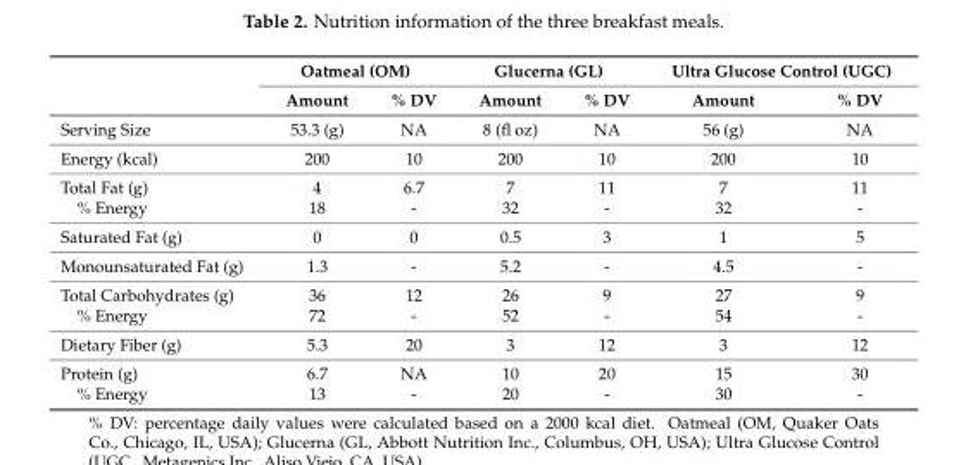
<table><thead><tr><td rowspan="2"></td><td colspan="2">Oatmeal (OM)</td><td colspan="2">Glucerna (GL)</td><td colspan="2">Ultra Glucose Control (UGC)</td></tr><tr><td>Amount</td><td>% DV</td><td>Amount</td><td>% DV</td><td>Amount</td><td>% DV</td></tr></thead><tbody><tr><td>Serving Size</td><td>53.3 (g)</td><td>NA</td><td>8 (fl oz)</td><td>NA</td><td>56 (g)</td><td>NA</td></tr><tr><td>Energy (kcal)</td><td>200</td><td>10</td><td>200</td><td>10</td><td>200</td><td>10</td></tr><tr><td>Total Fat (g)</td><td>4</td><td>6.7</td><td>7</td><td>11</td><td>7</td><td>11</td></tr><tr><td>% Energy</td><td>18</td><td>-</td><td>32</td><td>-</td><td>32</td><td>-</td></tr><tr><td>Saturated Fat (g)</td><td>0</td><td>0</td><td>0.5</td><td>3</td><td>1</td><td>5</td></tr><tr><td>Monounsaturated Fat (g)</td><td>1.3</td><td>-</td><td>5.2</td><td>-</td><td>4.5</td><td>-</td></tr><tr><td>Total Carbohydrates (g)</td><td>36</td><td>12</td><td>26</td><td>9</td><td>27</td><td>9</td></tr><tr><td>% Energy</td><td>72</td><td>-</td><td>52</td><td>-</td><td>54</td><td>-</td></tr><tr><td>Dietary Fiber (g)</td><td>5.3</td><td>20</td><td>3</td><td>12</td><td>3</td><td>12</td></tr><tr><td>Protein (g)</td><td>6.7</td><td>NA</td><td>10</td><td>20</td><td>15</td><td>30</td></tr><tr><td>% Energy</td><td>13</td><td>-</td><td>20</td><td>-</td><td>30</td><td>-</td></tr></tbody></table>